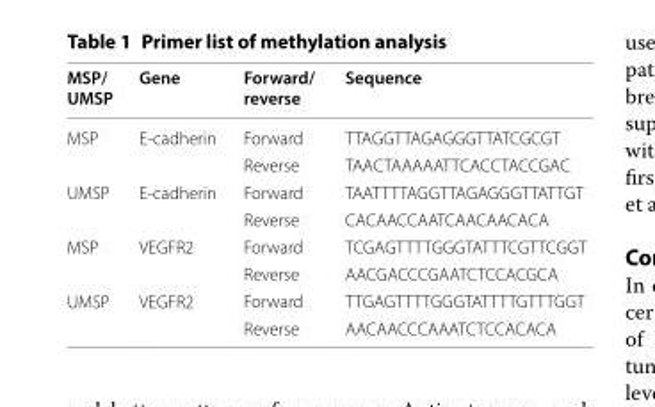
<table><thead><tr><td>MSP/ UMSP</td><td>Gene</td><td>Forward/ reverse</td><td>Sequence</td></tr></thead><tbody><tr><td rowspan="2">MSP</td><td rowspan="2">E-cadherin</td><td>Forward</td><td>TTAGGTTAGAGGGTTATCGCGT</td></tr><tr><td>Reverse</td><td>TAACTAAAAATTCACCTACCGAC</td></tr><tr><td rowspan="2">UMSP</td><td rowspan="2">E-cadherin</td><td>Forward</td><td>TAATTTTAGGTTAGAGGGTTATTGT</td></tr><tr><td>Reverse</td><td>CACAACCAATCAACAACACA</td></tr><tr><td rowspan="2">MSP</td><td rowspan="2">VEGFR2</td><td>Forward</td><td>TCGAGTTTTGGGTATTTCGTTCGGT</td></tr><tr><td>Reverse</td><td>AACGACCCGAATCTCCACGCA</td></tr><tr><td rowspan="2">UMSP</td><td rowspan="2">VEGFR2</td><td>Forward</td><td>TTGAGTTTTGGGTATTTTGTTTGGT</td></tr><tr><td>Reverse</td><td>AACAACCCAAATCTCCACACA</td></tr></tbody></table>